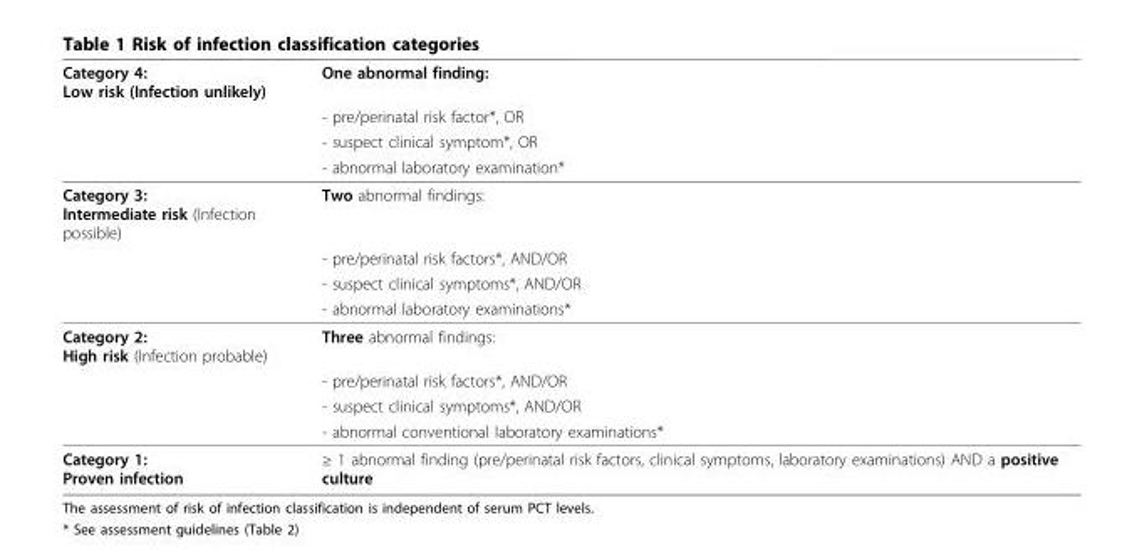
<table><thead><tr><td rowspan="4">Category 4: Low risk (Infection unlikely)</td><td rowspan="4">One abnormal finding: - pre/perinatal risk factor*, OR - suspect clinical symptom*, OR - abnormal laboratory examination*</td></tr><tr></tr><tr></tr><tr></tr></thead><tbody><tr><td rowspan="4">Category 3: Intermediate risk (Infection possible)</td><td>Two abnormal findings:</td></tr><tr><td>- pre/perinatal risk factors*, AND/OR</td></tr><tr><td>- suspect clinical symptoms*, AND/OR</td></tr><tr><td>- abnormal laboratory examinations*</td></tr><tr><td rowspan="4">Category 2: High risk (Infection probable)</td><td>Three abnormal findings:</td></tr><tr><td>- pre/perinatal risk factors*, AND/OR</td></tr><tr><td>- suspect clinical symptoms*, AND/OR</td></tr><tr><td>- abnormal conventional laboratory examinations*</td></tr><tr><td>Category 1: Proven infection</td><td>≥ 1 abnormal finding (pre/perinatal risk factors, clinical symptoms, laboratory examinations) AND a positive culture</td></tr></tbody></table>